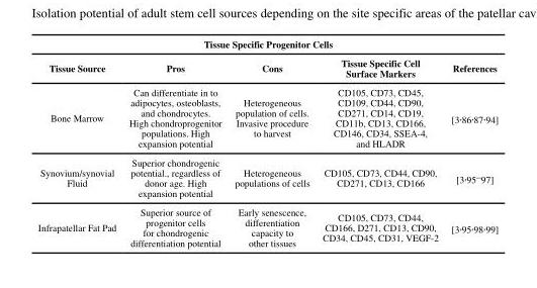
<table><thead><tr><td colspan="5">Tissue Specific Progenitor Cells</td></tr><tr><td>Tissue Source</td><td>Pros</td><td>Cons</td><td>Tissue Specific Cell Surface Markers</td><td>References</td></tr></thead><tbody><tr><td>Bone Marrow</td><td>Can differentiate in to adipocytes, osteoblasts, and chondrocytes. High chondroprogenitor populations. High expansion potential</td><td>Heterogeneous population of cells. Invasive procedure to harvest</td><td>CD105, CD73, CD45, CD109, CD44, CD90, CD271, CD14, CD19, CD11b, CD13, CD166, CD146, CD34, SSEA-4, and HLADR</td><td>[3,86,87,94]</td></tr><tr><td>Synovium/synovial Fluid</td><td>Superior chondrogenic potential., regardless of donor age. High expansion potential</td><td>Heterogeneous populations of cells</td><td>CD105, CD73, CD44, CD90, CD271, CD13, CD166</td><td>[3,95–97]</td></tr><tr><td>Infrapatellar Fat Pad</td><td>Superior source of progenitor cells for chondrogenic differentiation potential</td><td>Early senescence, differentiation capacity to other tissues</td><td>CD105, CD73, CD44, CD166, D271, CD13, CD90, CD34, CD45, CD31, VEGF-2</td><td>[3,95,98,99]</td></tr></tbody></table>